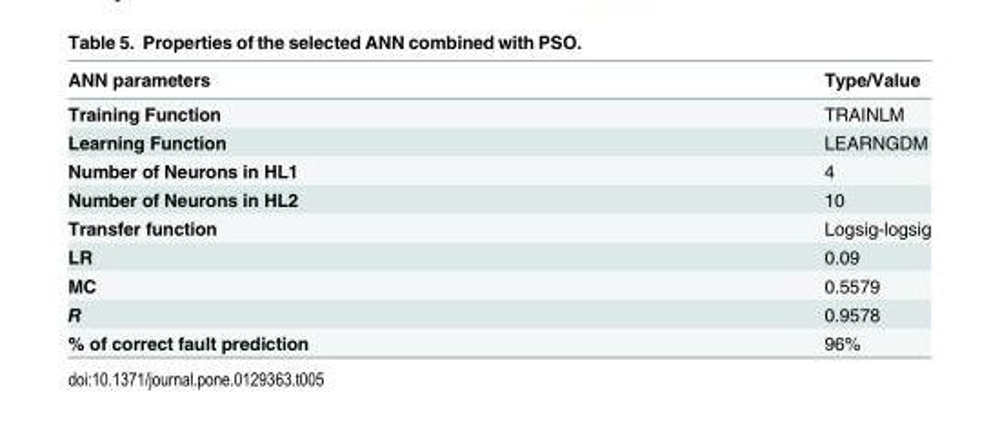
<table><thead><tr><td>ANN parameters</td><td>Type/Value</td></tr></thead><tbody><tr><td>Training Function</td><td>TRAINLM</td></tr><tr><td>Learning Function</td><td>LEARNGDM</td></tr><tr><td>Number of Neurons in HL1</td><td>4</td></tr><tr><td>Number of Neurons in HL2</td><td>10</td></tr><tr><td>Transfer function</td><td>Logsig-logsig</td></tr><tr><td>LR</td><td>0.09</td></tr><tr><td>MC</td><td>0.5579</td></tr><tr><td>R</td><td>0.9578</td></tr><tr><td>% of correct fault prediction</td><td>96%</td></tr></tbody></table>